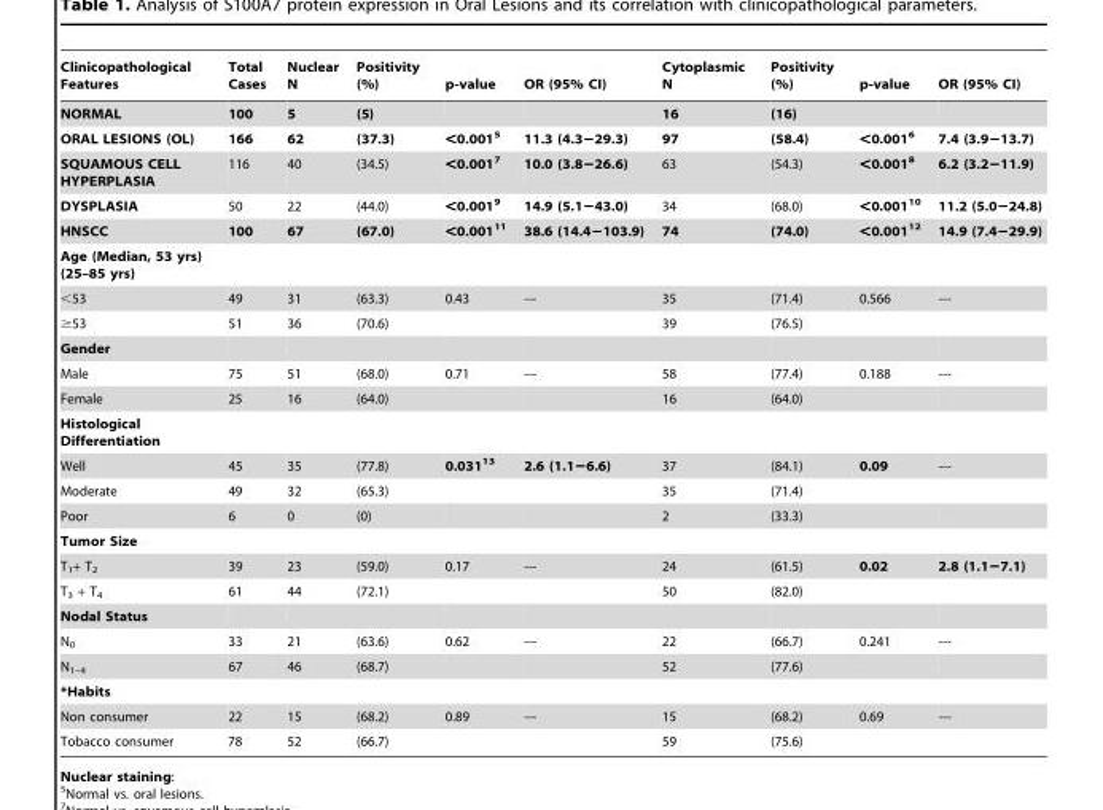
<table><thead><tr><td>Clinicopathological Features</td><td>Total Cases</td><td>Nuclear N</td><td>Positivity (%)</td><td>p-value</td><td>OR (95% CI)</td><td>Cytoplasmic N</td><td>Positivity (%)</td><td>p-value</td><td>OR (95% CI)</td></tr></thead><tbody><tr><td>NORMAL</td><td>100</td><td>5</td><td>(5)</td><td></td><td></td><td>16</td><td>(16)</td><td></td><td></td></tr><tr><td>ORAL LESIONS (OL)</td><td>166</td><td>62</td><td>(37.3)</td><td>&lt;0.0015</td><td>11.3 (4.3−29.3)</td><td>97</td><td>(58.4)</td><td>&lt;0.0016</td><td>7.4 (3.9−13.7)</td></tr><tr><td>SQUAMOUS CELL HYPERPLASIA</td><td>116</td><td>40</td><td>(34.5)</td><td>&lt;0.0017</td><td>10.0 (3.8−26.6)</td><td>63</td><td>(54.3)</td><td>&lt;0.0018</td><td>6.2 (3.2−11.9)</td></tr><tr><td>DYSPLASIA</td><td>50</td><td>22</td><td>(44.0)</td><td>&lt;0.0019</td><td>14.9 (5.1−43.0)</td><td>34</td><td>(68.0)</td><td>&lt;0.00110</td><td>11.2 (5.0−24.8)</td></tr><tr><td>HNSCC</td><td>100</td><td>67</td><td>(67.0)</td><td>&lt;0.00111</td><td>38.6 (14.4−103.9)</td><td>74</td><td>(74.0)</td><td>&lt;0.00112</td><td>14.9 (7.4−29.9)</td></tr><tr><td colspan="10">Age (Median, 53 yrs) (25–85 yrs)</td></tr><tr><td>&lt;53</td><td>49</td><td>31</td><td>(63.3)</td><td>0.43</td><td>---</td><td>35</td><td>(71.4)</td><td>0.566</td><td>---</td></tr><tr><td>≥53</td><td>51</td><td>36</td><td>(70.6)</td><td></td><td></td><td>39</td><td>(76.5)</td><td></td><td></td></tr><tr><td colspan="10">Gender</td></tr><tr><td>Male</td><td>75</td><td>51</td><td>(68.0)</td><td>0.71</td><td>---</td><td>58</td><td>(77.4)</td><td>0.188</td><td>---</td></tr><tr><td>Female</td><td>25</td><td>16</td><td>(64.0)</td><td></td><td></td><td>16</td><td>(64.0)</td><td></td><td></td></tr><tr><td colspan="10">Histological Differentiation</td></tr><tr><td>Well</td><td>45</td><td>35</td><td>(77.8)</td><td>0.03113</td><td>2.6 (1.1−6.6)</td><td>37</td><td>(84.1)</td><td>0.09</td><td>---</td></tr><tr><td>Moderate</td><td>49</td><td>32</td><td>(65.3)</td><td></td><td></td><td>35</td><td>(71.4)</td><td></td><td></td></tr><tr><td>Poor</td><td>6</td><td>0</td><td>(0)</td><td></td><td></td><td>2</td><td>(33.3)</td><td></td><td></td></tr><tr><td colspan="10">Tumor Size</td></tr><tr><td>T<sub>1</sub>+ T<sub>2</sub></td><td>39</td><td>23</td><td>(59.0)</td><td>0.17</td><td>---</td><td>24</td><td>(61.5)</td><td>0.02</td><td>2.8 (1.1−7.1)</td></tr><tr><td>T<sub>3</sub> + T<sub>4</sub></td><td>61</td><td>44</td><td>(72.1)</td><td></td><td></td><td>50</td><td>(82.0)</td><td></td><td></td></tr><tr><td colspan="10">Nodal Status</td></tr><tr><td>N<sub>0</sub></td><td>33</td><td>21</td><td>(63.6)</td><td>0.62</td><td>---</td><td>22</td><td>(66.7)</td><td>0.241</td><td>---</td></tr><tr><td>N<sub>1–4</sub></td><td>67</td><td>46</td><td>(68.7)</td><td></td><td></td><td>52</td><td>(77.6)</td><td></td><td></td></tr><tr><td colspan="10">*Habits</td></tr><tr><td>Non consumer</td><td>22</td><td>15</td><td>(68.2)</td><td>0.89</td><td>---</td><td>15</td><td>(68.2)</td><td>0.69</td><td>---</td></tr><tr><td>Tobacco consumer</td><td>78</td><td>52</td><td>(66.7)</td><td></td><td></td><td>59</td><td>(75.6)</td><td></td><td></td></tr></tbody></table>